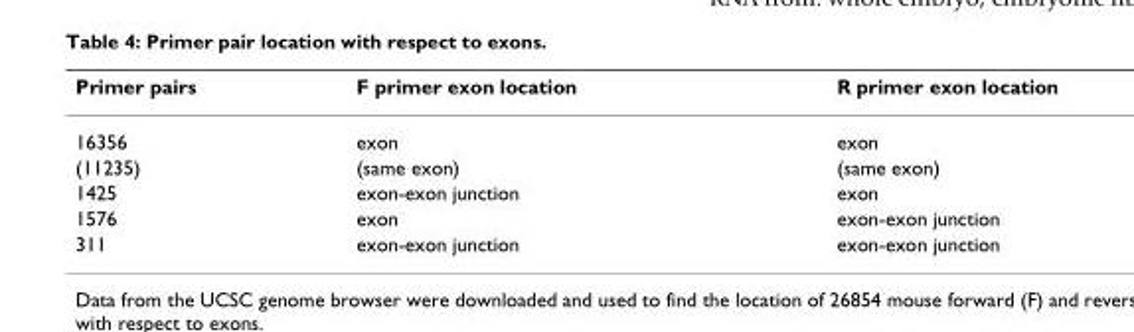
<table><thead><tr><td>Primer pairs</td><td>F primer exon location</td><td>R primer exon location</td></tr></thead><tbody><tr><td>16356</td><td>exon</td><td>exon</td></tr><tr><td>(11235)</td><td>(same exon)</td><td>(same exon)</td></tr><tr><td>1425</td><td>exon-exon junction</td><td>exon</td></tr><tr><td>1576</td><td>exon</td><td>exon-exon junction</td></tr><tr><td>311</td><td>exon-exon junction</td><td>exon-exon junction</td></tr></tbody></table>